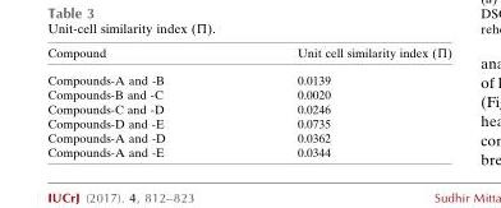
<table><thead><tr><td>Compound</td><td>Unit cell similarity index (Π)</td></tr></thead><tbody><tr><td>Compounds-A and -B</td><td>0.0139</td></tr><tr><td>Compounds-B and -C</td><td>0.0020</td></tr><tr><td>Compounds-C and -D</td><td>0.0246</td></tr><tr><td>Compounds-D and -E</td><td>0.0735</td></tr><tr><td>Compounds-A and -D</td><td>0.0362</td></tr><tr><td>Compounds-A and -E</td><td>0.0344</td></tr></tbody></table>